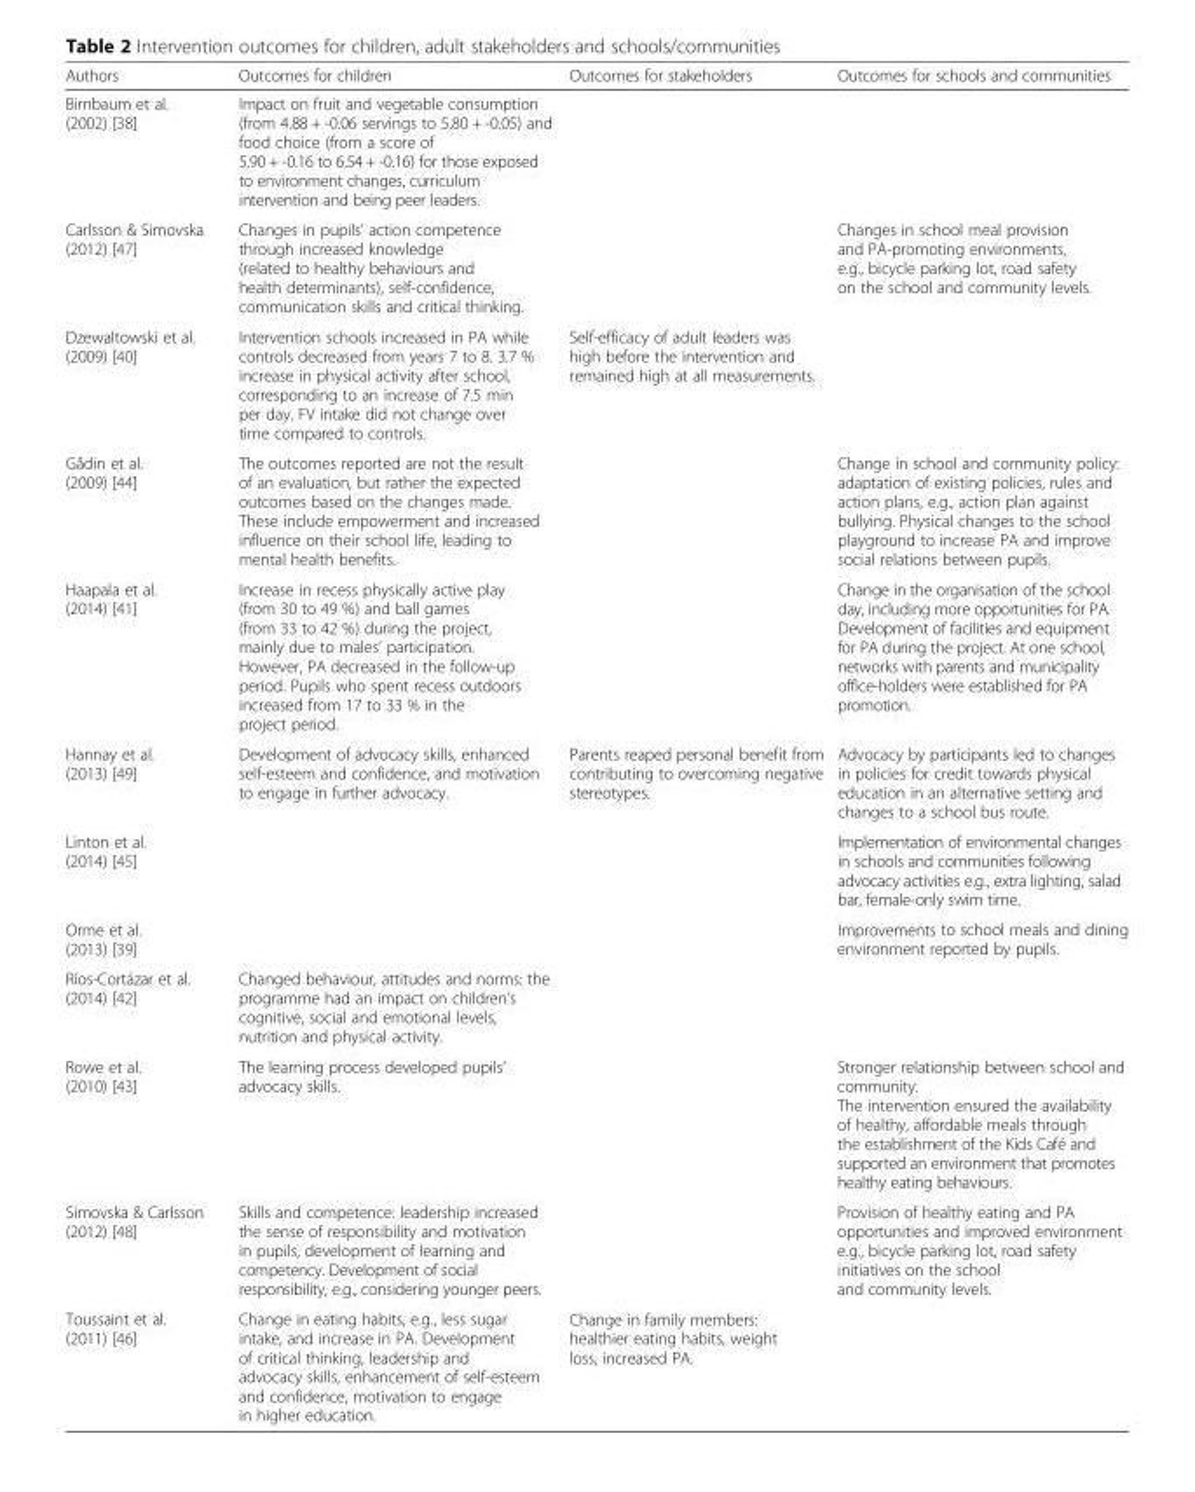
<table><thead><tr><td>Authors</td><td>Outcomes for children</td><td>Outcomes for stakeholders</td><td>Outcomes for schools and communities</td></tr></thead><tbody><tr><td>Birnbaum et al. (2002) [38]</td><td>Impact on fruit and vegetable consumption (from 4.88 + -0.06 servings to 5.80 + -0.05) and food choice (from a score of 5.90 + -0.16 to 6.54 + -0.16) for those exposed to environment changes, curriculum intervention and being peer leaders.</td><td></td><td></td></tr><tr><td>Carlsson &amp; Simovska (2012) [47]</td><td>Changes in pupils’ action competence through increased knowledge (related to healthy behaviours and health determinants), self-confidence, communication skills and critical thinking.</td><td></td><td>Changes in school meal provision and PA-promoting environments, e.g., bicycle parking lot, road safety on the school and community levels.</td></tr><tr><td>Dzewaltowski et al. (2009) [40]</td><td>Intervention schools increased in PA while controls decreased from years 7 to 8. 3.7 % increase in physical activity after school, corresponding to an increase of 7.5 min per day. FV intake did not change over time compared to controls.</td><td>Self-efficacy of adult leaders was high before the intervention and remained high at all measurements.</td><td></td></tr><tr><td>Gådin et al. (2009) [44]</td><td>The outcomes reported are not the result of an evaluation, but rather the expected outcomes based on the changes made. These include empowerment and increased influence on their school life, leading to mental health benefits.</td><td></td><td>Change in school and community policy: adaptation of existing policies, rules and action plans, e.g., action plan against bullying. Physical changes to the school playground to increase PA and improve social relations between pupils.</td></tr><tr><td>Haapala et al. (2014) [41]</td><td>Increase in recess physically active play (from 30 to 49 %) and ball games (from 33 to 42 %) during the project, mainly due to males’ participation. However, PA decreased in the follow-up period. Pupils who spent recess outdoors increased from 17 to 33 % in the project period.</td><td></td><td>Change in the organisation of the school day, including more opportunities for PA. Development of facilities and equipment for PA during the project. At one school, networks with parents and municipality office-holders were established for PA promotion.</td></tr><tr><td>Hannay et al. (2013) [49]</td><td>Development of advocacy skills, enhanced self-esteem and confidence, and motivation to engage in further advocacy.</td><td>Parents reaped personal benefit from contributing to overcoming negative stereotypes.</td><td>Advocacy by participants led to changes in policies for credit towards physical education in an alternative setting and changes to a school bus route.</td></tr><tr><td>Linton et al. (2014) [45]</td><td></td><td></td><td>Implementation of environmental changes in schools and communities following advocacy activities e.g., extra lighting, salad bar, female-only swim time.</td></tr><tr><td>Orme et al. (2013) [39]</td><td></td><td></td><td>Improvements to school meals and dining environment reported by pupils.</td></tr><tr><td>Ríos-Cortázar et al. (2014) [42]</td><td>Changed behaviour, attitudes and norms: the programme had an impact on children’s cognitive, social and emotional levels, nutrition and physical activity.</td><td></td><td></td></tr><tr><td>Rowe et al. (2010) [43]</td><td>The learning process developed pupils’ advocacy skills.</td><td></td><td>Stronger relationship between school and community. The intervention ensured the availability of healthy, affordable meals through the establishment of the Kids Café and supported an environment that promotes healthy eating behaviours.</td></tr><tr><td>Simovska &amp; Carlsson (2012) [48]</td><td>Skills and competence: leadership increased the sense of responsibility and motivation in pupils, development of learning and competency. Development of social responsibility, e.g., considering younger peers.</td><td></td><td>Provision of healthy eating and PA opportunities and improved environment e.g., bicycle parking lot, road safety initiatives on the school and community levels.</td></tr><tr><td>Toussaint et al. (2011) [46]</td><td>Change in eating habits, e.g., less sugar intake, and increase in PA. Development of critical thinking, leadership and advocacy skills, enhancement of self-esteem and confidence, motivation to engage in higher education.</td><td>Change in family members: healthier eating habits, weight loss, increased PA.</td><td></td></tr></tbody></table>